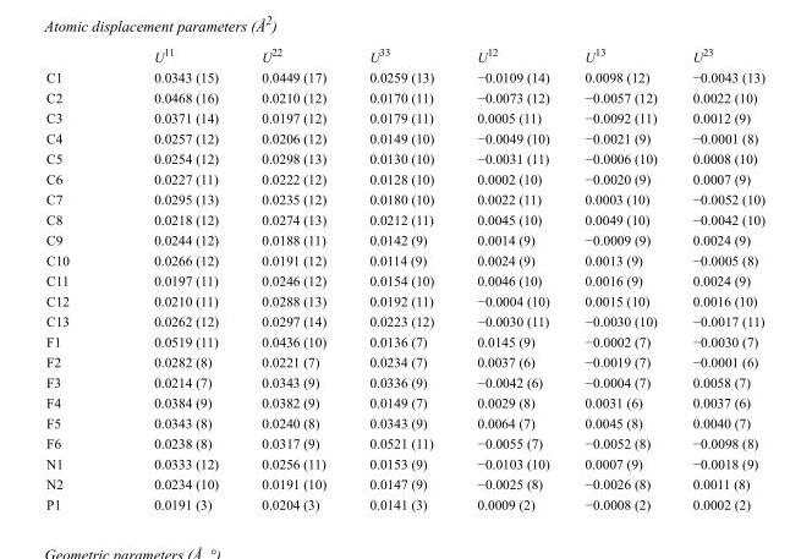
<table><thead><tr><td></td><td>U<sup>11</sup></td><td>U<sup>22</sup></td><td>U<sup>33</sup></td><td>U<sup>12</sup></td><td>U<sup>13</sup></td><td>U<sup>23</sup></td></tr></thead><tbody><tr><td>C1</td><td>0.0343 (15)</td><td>0.0449 (17)</td><td>0.0259 (13)</td><td>−0.0109 (14)</td><td>0.0098 (12)</td><td>−0.0043 (13)</td></tr><tr><td>C2</td><td>0.0468 (16)</td><td>0.0210 (12)</td><td>0.0170 (11)</td><td>−0.0073 (12)</td><td>−0.0057 (12)</td><td>0.0022 (10)</td></tr><tr><td>C3</td><td>0.0371 (14)</td><td>0.0197 (12)</td><td>0.0179 (11)</td><td>0.0005 (11)</td><td>−0.0092 (11)</td><td>0.0012 (9)</td></tr><tr><td>C4</td><td>0.0257 (12)</td><td>0.0206 (12)</td><td>0.0149 (10)</td><td>−0.0049 (10)</td><td>−0.0021 (9)</td><td>−0.0001 (8)</td></tr><tr><td>C5</td><td>0.0254 (12)</td><td>0.0298 (13)</td><td>0.0130 (10)</td><td>−0.0031 (11)</td><td>−0.0006 (10)</td><td>0.0008 (10)</td></tr><tr><td>C6</td><td>0.0227 (11)</td><td>0.0222 (12)</td><td>0.0128 (10)</td><td>0.0002 (10)</td><td>−0.0020 (9)</td><td>0.0007 (9)</td></tr><tr><td>C7</td><td>0.0295 (13)</td><td>0.0235 (12)</td><td>0.0180 (10)</td><td>0.0022 (11)</td><td>0.0003 (10)</td><td>−0.0052 (10)</td></tr><tr><td>C8</td><td>0.0218 (12)</td><td>0.0274 (13)</td><td>0.0212 (11)</td><td>0.0045 (10)</td><td>0.0049 (10)</td><td>−0.0042 (10)</td></tr><tr><td>C9</td><td>0.0244 (12)</td><td>0.0188 (11)</td><td>0.0142 (9)</td><td>0.0014 (9)</td><td>−0.0009 (9)</td><td>0.0024 (9)</td></tr><tr><td>C10</td><td>0.0266 (12)</td><td>0.0191 (12)</td><td>0.0114 (9)</td><td>0.0024 (9)</td><td>0.0013 (9)</td><td>−0.0005 (8)</td></tr><tr><td>C11</td><td>0.0197 (11)</td><td>0.0246 (12)</td><td>0.0154 (10)</td><td>0.0046 (10)</td><td>0.0016 (9)</td><td>0.0024 (9)</td></tr><tr><td>C12</td><td>0.0210 (11)</td><td>0.0288 (13)</td><td>0.0192 (11)</td><td>−0.0004 (10)</td><td>0.0015 (10)</td><td>0.0016 (10)</td></tr><tr><td>C13</td><td>0.0262 (12)</td><td>0.0297 (14)</td><td>0.0223 (12)</td><td>−0.0030 (11)</td><td>−0.0030 (10)</td><td>−0.0017 (11)</td></tr><tr><td>F1</td><td>0.0519 (11)</td><td>0.0436 (10)</td><td>0.0136 (7)</td><td>0.0145 (9)</td><td>−0.0002 (7)</td><td>−0.0030 (7)</td></tr><tr><td>F2</td><td>0.0282 (8)</td><td>0.0221 (7)</td><td>0.0234 (7)</td><td>0.0037 (6)</td><td>−0.0019 (7)</td><td>−0.0001 (6)</td></tr><tr><td>F3</td><td>0.0214 (7)</td><td>0.0343 (9)</td><td>0.0336 (9)</td><td>−0.0042 (6)</td><td>−0.0004 (7)</td><td>0.0058 (7)</td></tr><tr><td>F4</td><td>0.0384 (9)</td><td>0.0382 (9)</td><td>0.0149 (7)</td><td>0.0029 (8)</td><td>0.0031 (6)</td><td>0.0037 (6)</td></tr><tr><td>F5</td><td>0.0343 (8)</td><td>0.0240 (8)</td><td>0.0343 (9)</td><td>0.0064 (7)</td><td>0.0045 (8)</td><td>0.0040 (7)</td></tr><tr><td>F6</td><td>0.0238 (8)</td><td>0.0317 (9)</td><td>0.0521 (11)</td><td>−0.0055 (7)</td><td>−0.0052 (8)</td><td>−0.0098 (8)</td></tr><tr><td>N1</td><td>0.0333 (12)</td><td>0.0256 (11)</td><td>0.0153 (9)</td><td>−0.0103 (10)</td><td>0.0007 (9)</td><td>−0.0018 (9)</td></tr><tr><td>N2</td><td>0.0234 (10)</td><td>0.0191 (10)</td><td>0.0147 (9)</td><td>−0.0025 (8)</td><td>−0.0026 (8)</td><td>0.0011 (8)</td></tr><tr><td>P1</td><td>0.0191 (3)</td><td>0.0204 (3)</td><td>0.0141 (3)</td><td>0.0009 (2)</td><td>−0.0008 (2)</td><td>0.0002 (2)</td></tr></tbody></table>